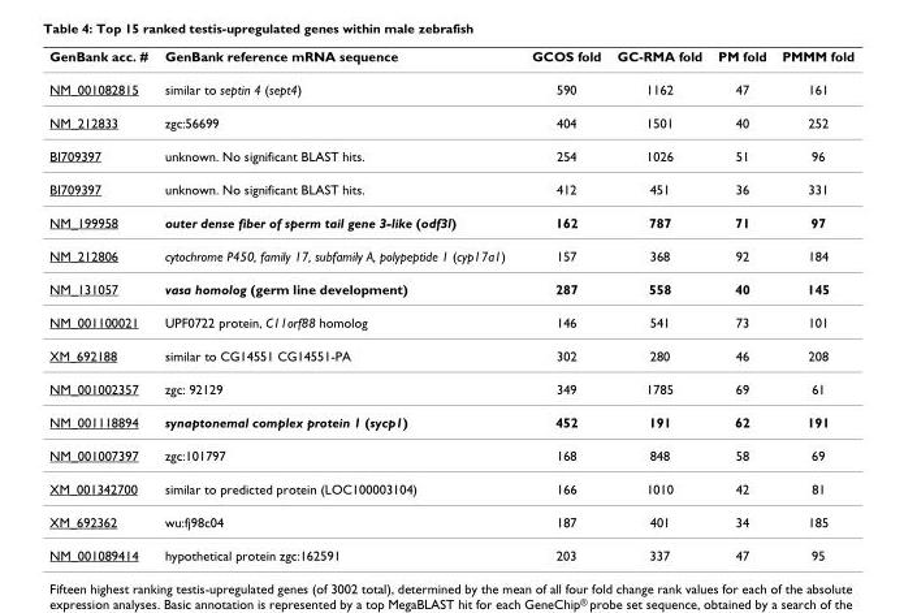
<table><thead><tr><td>GenBank acc. #</td><td>GenBank reference mRNA sequence</td><td>GCOS fold</td><td>GC-RMA fold</td><td>PM fold</td><td>PMMM fold</td></tr></thead><tbody><tr><td>NM_001082815</td><td>similar to septin 4 (sept4)</td><td>590</td><td>1162</td><td>47</td><td>161</td></tr><tr><td>NM_212833</td><td>zgc:56699</td><td>404</td><td>1501</td><td>40</td><td>252</td></tr><tr><td>BI709397</td><td>unknown. No significant BLAST hits.</td><td>254</td><td>1026</td><td>51</td><td>96</td></tr><tr><td>BI709397</td><td>unknown. No significant BLAST hits.</td><td>412</td><td>451</td><td>36</td><td>331</td></tr><tr><td>NM_199958</td><td>outer dense fiber of sperm tail gene 3-like (odf3l)</td><td>162</td><td>787</td><td>71</td><td>97</td></tr><tr><td>NM_212806</td><td>cytochrome P450, family 17, subfamily A, polypeptide 1 (cyp17a1)</td><td>157</td><td>368</td><td>92</td><td>184</td></tr><tr><td>NM_131057</td><td>vasa homolog (germ line development)</td><td>287</td><td>558</td><td>40</td><td>145</td></tr><tr><td>NM_001100021</td><td>UPF0722 protein, C11orf88 homolog</td><td>146</td><td>541</td><td>73</td><td>101</td></tr><tr><td>XM_692188</td><td>similar to CG14551 CG14551-PA</td><td>302</td><td>280</td><td>46</td><td>208</td></tr><tr><td>NM_001002357</td><td>zgc: 92129</td><td>349</td><td>1785</td><td>69</td><td>61</td></tr><tr><td>NM_001118894</td><td>synaptonemal complex protein 1 (sycp1)</td><td>452</td><td>191</td><td>62</td><td>191</td></tr><tr><td>NM_001007397</td><td>zgc:101797</td><td>168</td><td>848</td><td>58</td><td>69</td></tr><tr><td>XM_001342700</td><td>similar to predicted protein (LOC100003104)</td><td>166</td><td>1010</td><td>42</td><td>81</td></tr><tr><td>XM_692362</td><td>wu:fj98c04</td><td>187</td><td>401</td><td>34</td><td>185</td></tr><tr><td>NM_001089414</td><td>hypothetical protein zgc:162591</td><td>203</td><td>337</td><td>47</td><td>95</td></tr></tbody></table>